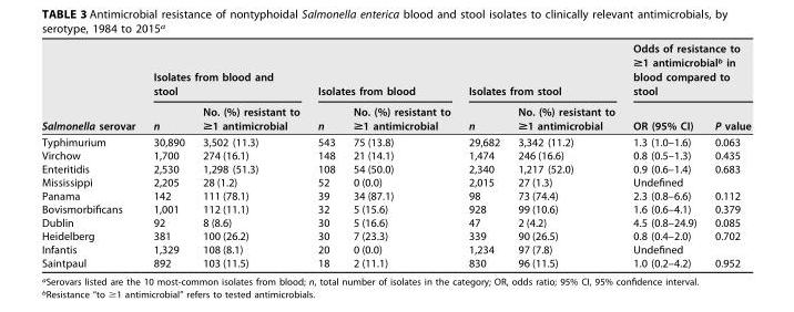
<table><thead><tr><td rowspan="2">Salmonella serovar</td><td colspan="2">Isolates from blood and stool</td><td colspan="2">Isolates from blood</td><td colspan="2">Isolates from stool</td><td colspan="2">Odds of resistance to &gt;1 antimicrobialb in blood compared to stool</td></tr><tr><td>n</td><td>No. (%) resistant to &gt;1 antimicrobial</td><td>n</td><td>No. (%) resistant to &gt;1 antimicrobial</td><td>n</td><td>No. (%) resistant to &gt;1 antimicrobial</td><td>OR (95% CI)</td><td>P value</td></tr></thead><tbody><tr><td>Typhimurium</td><td>30,890</td><td>3,502 (11.3)</td><td>543</td><td>75 (13.8)</td><td>29,682</td><td>3,342 (11.2)</td><td>1.3 (1.0–1.6)</td><td>0.063</td></tr><tr><td>Virchow</td><td>1,700</td><td>274 (16.1)</td><td>148</td><td>21 (14.1)</td><td>1,474</td><td>246 (16.6)</td><td>0.8 (0.5–1.3)</td><td>0.435</td></tr><tr><td>Enteritidis</td><td>2,530</td><td>1,298 (51.3)</td><td>108</td><td>54 (50.0)</td><td>2,340</td><td>1,217 (52.0)</td><td>0.9 (0.6–1.4)</td><td>0.683</td></tr><tr><td>Mississippi</td><td>2,205</td><td>28 (1.2)</td><td>52</td><td>0 (0.0)</td><td>2,015</td><td>27 (1.3)</td><td>Undefined</td><td></td></tr><tr><td>Panama</td><td>142</td><td>111 (78.1)</td><td>39</td><td>34 (87.1)</td><td>98</td><td>73 (74.4)</td><td>2.3 (0.8–6.6)</td><td>0.112</td></tr><tr><td>Bovismorbificans</td><td>1,001</td><td>112 (11.1)</td><td>32</td><td>5 (15.6)</td><td>928</td><td>99 (10.6)</td><td>1.6 (0.6–4.1)</td><td>0.379</td></tr><tr><td>Dublin</td><td>92</td><td>8 (8.6)</td><td>30</td><td>5 (16.6)</td><td>47</td><td>2 (4.2)</td><td>4.5 (0.8–24.9)</td><td>0.085</td></tr><tr><td>Heidelberg</td><td>381</td><td>100 (26.2)</td><td>30</td><td>7 (23.3)</td><td>339</td><td>90 (26.5)</td><td>0.8 (0.4–2.0)</td><td>0.702</td></tr><tr><td>Infantis</td><td>1,329</td><td>108 (8.1)</td><td>20</td><td>0 (0.0)</td><td>1,234</td><td>97 (7.8)</td><td>Undefined</td><td></td></tr><tr><td>Saintpaul</td><td>892</td><td>103 (11.5)</td><td>18</td><td>2 (11.1)</td><td>830</td><td>96 (11.5)</td><td>1.0 (0.2–4.2)</td><td>0.952</td></tr></tbody></table>